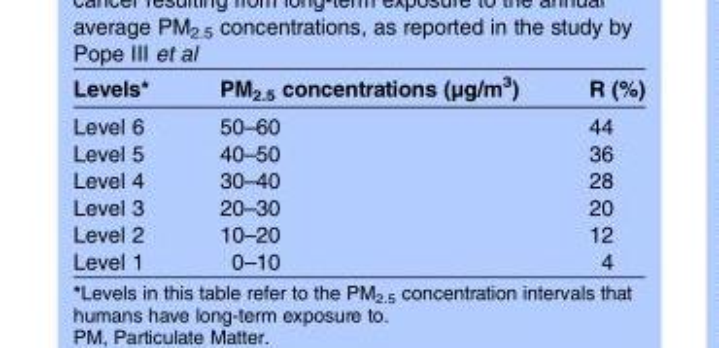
<table><thead><tr><td>Levels*</td><td>PM<sub>2.5</sub> concentrations (µg/m<sup>3</sup>)</td><td>R (%)</td></tr></thead><tbody><tr><td>Level 6</td><td>50–60</td><td>44</td></tr><tr><td>Level 5</td><td>40–50</td><td>36</td></tr><tr><td>Level 4</td><td>30–40</td><td>28</td></tr><tr><td>Level 3</td><td>20–30</td><td>20</td></tr><tr><td>Level 2</td><td>10–20</td><td>12</td></tr><tr><td>Level 1</td><td>0–10</td><td>4</td></tr></tbody></table>